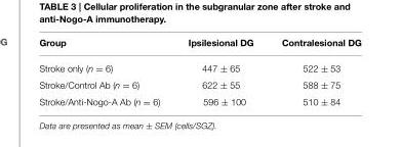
<table><thead><tr><td>Group</td><td>Ipsilesional DG</td><td>Contralesional DG</td></tr></thead><tbody><tr><td>Stroke only (n = 6)</td><td>447 ± 65</td><td>522 ± 53</td></tr><tr><td>Stroke/Control Ab (n = 6)</td><td>622 ± 55</td><td>588 ± 75</td></tr><tr><td>Stroke/Anti-Nogo-A Ab (n = 6)</td><td>596 ± 100</td><td>510 ± 84</td></tr></tbody></table>